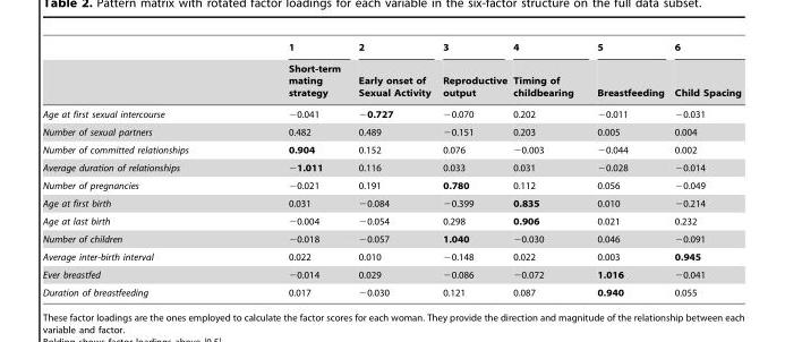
<table><thead><tr><td rowspan="2"></td><td rowspan="2">1 Short-term mating strategy</td><td rowspan="2">2 Early onset of Sexual Activity</td><td rowspan="2">3 Reproductive output</td><td rowspan="2">4 Timing of childbearing</td><td rowspan="2">5 Breastfeeding</td><td rowspan="2">6 Child Spacing</td></tr><tr></tr></thead><tbody><tr><td>Age at first sexual intercourse</td><td>−0.041</td><td>−0.727</td><td>−0.070</td><td>0.202</td><td>−0.011</td><td>−0.031</td></tr><tr><td>Number of sexual partners</td><td>0.482</td><td>0.489</td><td>−0.151</td><td>0.203</td><td>0.005</td><td>0.004</td></tr><tr><td>Number of committed relationships</td><td>0.904</td><td>0.152</td><td>0.076</td><td>−0.003</td><td>−0.044</td><td>0.002</td></tr><tr><td>Average duration of relationships</td><td>−1.011</td><td>0.116</td><td>0.033</td><td>0.031</td><td>−0.028</td><td>−0.014</td></tr><tr><td>Number of pregnancies</td><td>−0.021</td><td>0.191</td><td>0.780</td><td>0.112</td><td>0.056</td><td>−0.049</td></tr><tr><td>Age at first birth</td><td>0.031</td><td>−0.084</td><td>−0.399</td><td>0.835</td><td>0.010</td><td>−0.214</td></tr><tr><td>Age at last birth</td><td>−0.004</td><td>−0.054</td><td>0.298</td><td>0.906</td><td>0.021</td><td>0.232</td></tr><tr><td>Number of children</td><td>−0.018</td><td>−0.057</td><td>1.040</td><td>−0.030</td><td>0.046</td><td>−0.091</td></tr><tr><td>Average inter-birth interval</td><td>0.022</td><td>0.010</td><td>−0.148</td><td>0.022</td><td>0.003</td><td>0.945</td></tr><tr><td>Ever breastfed</td><td>−0.014</td><td>0.029</td><td>−0.086</td><td>−0.072</td><td>1.016</td><td>−0.041</td></tr><tr><td>Duration of breastfeeding</td><td>0.017</td><td>−0.030</td><td>0.121</td><td>0.087</td><td>0.940</td><td>0.055</td></tr></tbody></table>